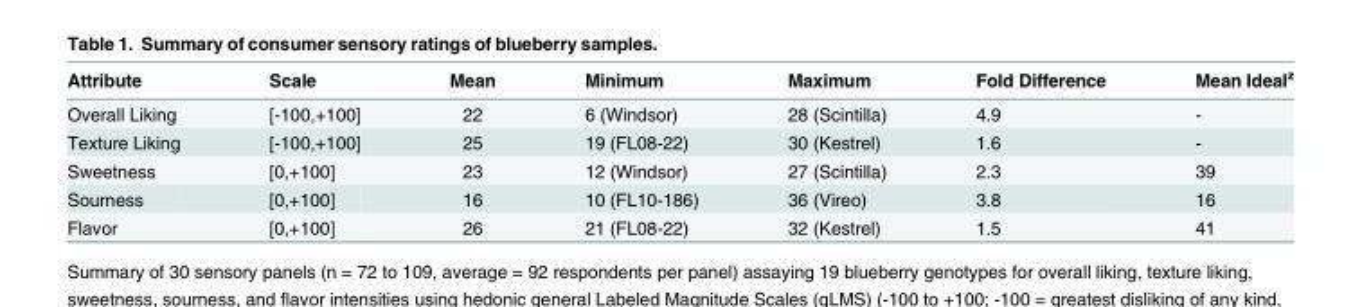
<table><thead><tr><td>Attribute</td><td>Scale</td><td>Mean</td><td>Minimum</td><td>Maximum</td><td>Fold Difference</td><td>Mean Ideal<sup>z</sup></td></tr></thead><tbody><tr><td>Overall Liking</td><td>[-100,+100]</td><td>22</td><td>6 (Windsor)</td><td>28 (Scintilla)</td><td>4.9</td><td>-</td></tr><tr><td>Texture Liking</td><td>[-100,+100]</td><td>25</td><td>19 (FL08-22)</td><td>30 (Kestrel)</td><td>1.6</td><td>-</td></tr><tr><td>Sweetness</td><td>[0,+100]</td><td>23</td><td>12 (Windsor)</td><td>27 (Scintilla)</td><td>2.3</td><td>39</td></tr><tr><td>Sourness</td><td>[0,+100]</td><td>16</td><td>10 (FL10-186)</td><td>36 (Vireo)</td><td>3.8</td><td>16</td></tr><tr><td>Flavor</td><td>[0,+100]</td><td>26</td><td>21 (FL08-22)</td><td>32 (Kestrel)</td><td>1.5</td><td>41</td></tr></tbody></table>